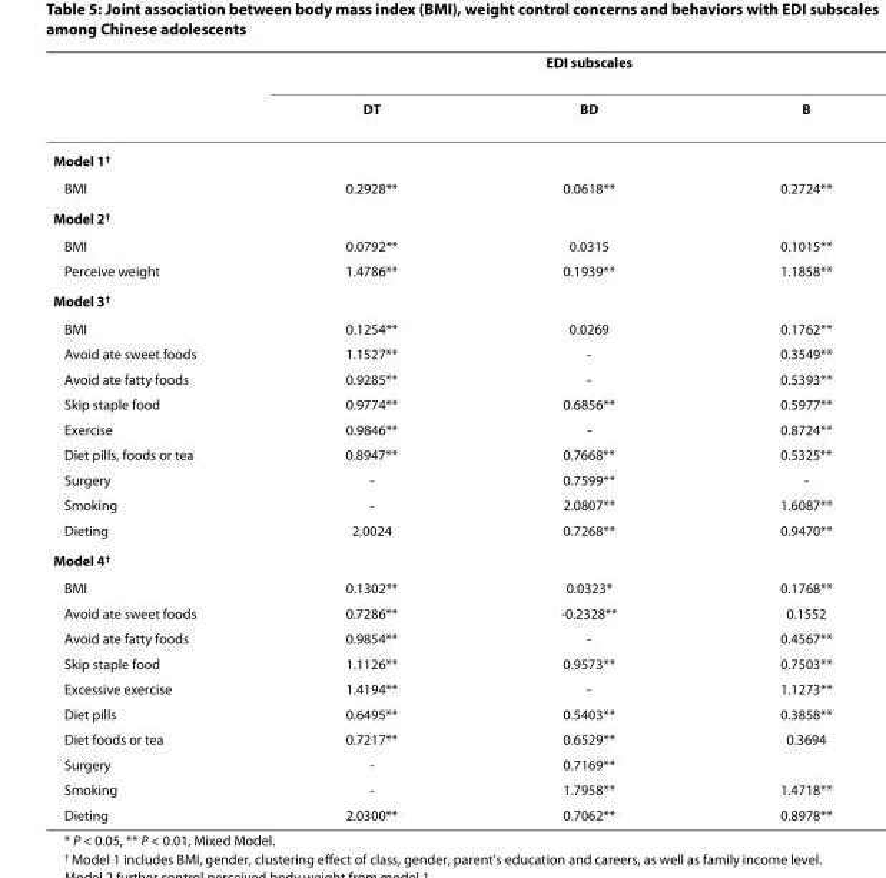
<table><thead><tr><td rowspan="2"></td><td colspan="3">EDI subscales</td></tr><tr><td>DT</td><td>BD</td><td>B</td></tr></thead><tbody><tr><td colspan="4">Model 1<sup>†</sup></td></tr><tr><td>BMI</td><td>0.2928**</td><td>0.0618**</td><td>0.2724**</td></tr><tr><td colspan="4">Model 2<sup>†</sup></td></tr><tr><td>BMI</td><td>0.0792**</td><td>0.0315</td><td>0.1015**</td></tr><tr><td>Perceive weight</td><td>1.4786**</td><td>0.1939**</td><td>1.1858**</td></tr><tr><td colspan="4">Model 3<sup>†</sup></td></tr><tr><td>BMI</td><td>0.1254**</td><td>0.0269</td><td>0.1762**</td></tr><tr><td>Avoid ate sweet foods</td><td>1.1527**</td><td>-</td><td>0.3549**</td></tr><tr><td>Avoid ate fatty foods</td><td>0.9285**</td><td>-</td><td>0.5393**</td></tr><tr><td>Skip staple food</td><td>0.9774**</td><td>0.6856**</td><td>0.5977**</td></tr><tr><td>Exercise</td><td>0.9846**</td><td>-</td><td>0.8724**</td></tr><tr><td>Diet pills, foods or tea</td><td>0.8947**</td><td>0.7668**</td><td>0.5325**</td></tr><tr><td>Surgery</td><td>-</td><td>0.7599**</td><td>-</td></tr><tr><td>Smoking</td><td>-</td><td>2.0807**</td><td>1.6087**</td></tr><tr><td>Dieting</td><td>2.0024</td><td>0.7268**</td><td>0.9470**</td></tr><tr><td colspan="4">Model 4<sup>†</sup></td></tr><tr><td>BMI</td><td>0.1302**</td><td>0.0323*</td><td>0.1768**</td></tr><tr><td>Avoid ate sweet foods</td><td>0.7286**</td><td>-0.2328**</td><td>0.1552</td></tr><tr><td>Avoid ate fatty foods</td><td>0.9854**</td><td>-</td><td>0.4567**</td></tr><tr><td>Skip staple food</td><td>1.1126**</td><td>0.9573**</td><td>0.7503**</td></tr><tr><td>Excessive exercise</td><td>1.4194**</td><td>-</td><td>1.1273**</td></tr><tr><td>Diet pills</td><td>0.6495**</td><td>0.5403**</td><td>0.3858**</td></tr><tr><td>Diet foods or tea</td><td>0.7217**</td><td>0.6529**</td><td>0.3694</td></tr><tr><td>Surgery</td><td>-</td><td>0.7169**</td><td></td></tr><tr><td>Smoking</td><td>-</td><td>1.7958**</td><td>1.4718**</td></tr><tr><td>Dieting</td><td>2.0300**</td><td>0.7062**</td><td>0.8978**</td></tr></tbody></table>